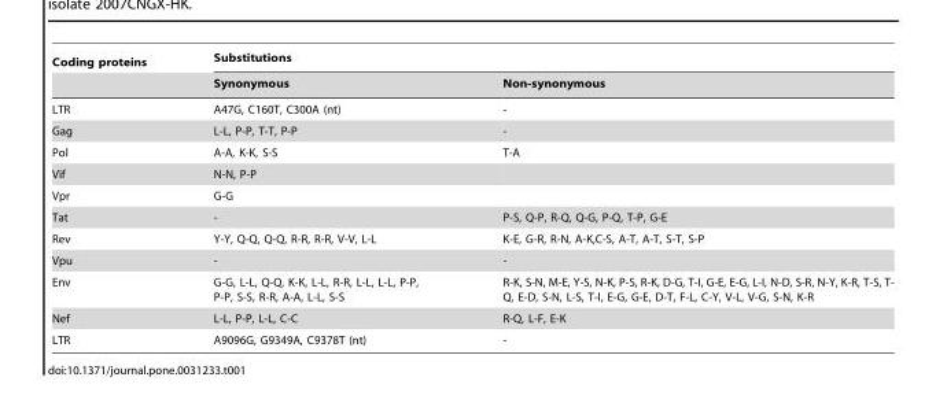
<table><thead><tr><td rowspan="2">Coding proteins</td><td colspan="2">Substitutions</td></tr><tr><td>Synonymous</td><td>Non-synonymous</td></tr></thead><tbody><tr><td>LTR</td><td>A47G, C160T, C300A (nt)</td><td>-</td></tr><tr><td>Gag</td><td>L-L, P-P, T-T, P-P</td><td>-</td></tr><tr><td>Pol</td><td>A-A, K-K, S-S</td><td>T-A</td></tr><tr><td>Vif</td><td>N-N, P-P</td><td></td></tr><tr><td>Vpr</td><td>G-G</td><td></td></tr><tr><td>Tat</td><td>-</td><td>P-S, Q-P, R-Q, Q-G, P-Q, T-P, G-E</td></tr><tr><td>Rev</td><td>Y-Y, Q-Q, Q-Q, R-R, R-R, V-V, L-L</td><td>K-E, G-R, R-N, A-K,C-S, A-T, A-T, S-T, S-P</td></tr><tr><td>Vpu</td><td>-</td><td>-</td></tr><tr><td>Env</td><td>G-G, L-L, Q-Q, K-K, L-L, R-R, L-L, L-L, P-P, P-P, S-S, R-R, A-A, L-L, S-S</td><td>R-K, S-N, M-E, Y-S, N-K, P-S, R-K, D-G, T-I, G-E, E-G, L-I, N-D, S-R, N-Y, K-R, T-S, T- Q, E-D, S-N, L-S, T-I, E-G, G-E, D-T, F-L, C-Y, V-L, V-G, S-N, K-R</td></tr><tr><td>Nef</td><td>L-L, P-P, L-L, C-C</td><td>R-Q, L-F, E-K</td></tr><tr><td>LTR</td><td>A9096G, G9349A, C9378T (nt)</td><td>-</td></tr></tbody></table>